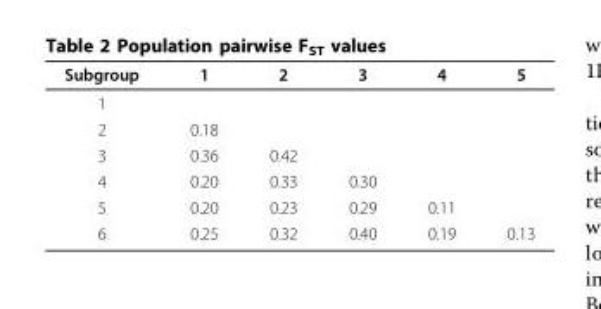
<table><thead><tr><td>Subgroup</td><td>1</td><td>2</td><td>3</td><td>4</td><td>5</td></tr></thead><tbody><tr><td colspan="6">1</td></tr><tr><td>2</td><td>0.18</td><td></td><td></td><td></td><td></td></tr><tr><td>3</td><td>0.36</td><td>0.42</td><td></td><td></td><td></td></tr><tr><td>4</td><td>0.20</td><td>0.33</td><td>0.30</td><td></td><td></td></tr><tr><td>5</td><td>0.20</td><td>0.23</td><td>0.29</td><td>0.11</td><td></td></tr><tr><td>6</td><td>0.25</td><td>0.32</td><td>0.40</td><td>0.19</td><td>0.13</td></tr></tbody></table>